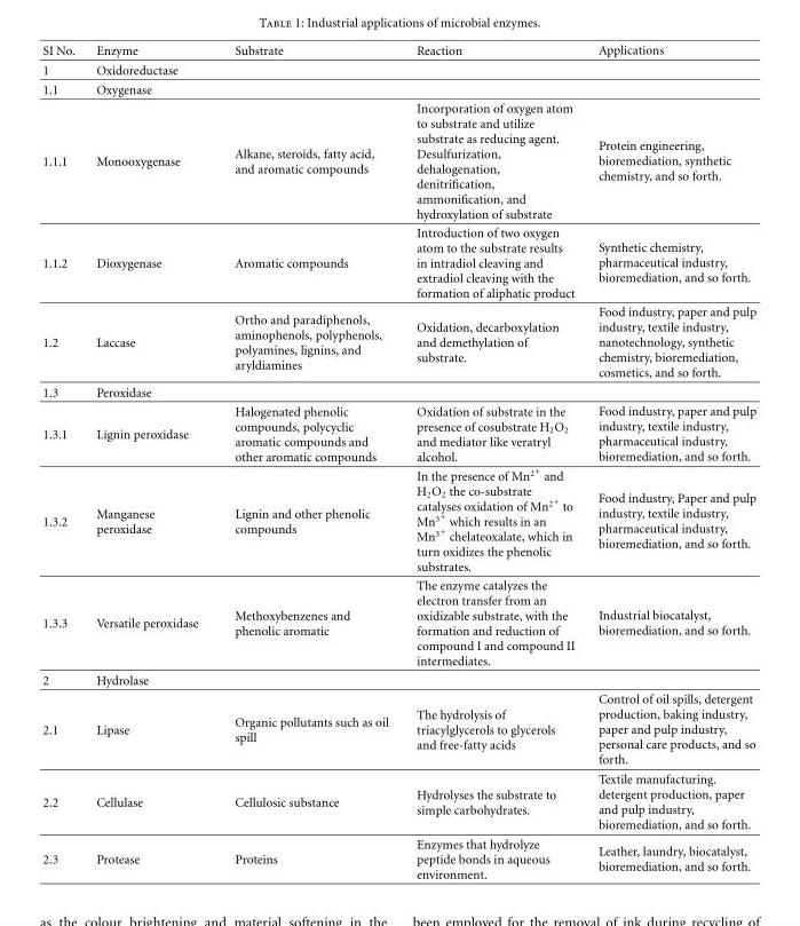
<table><thead><tr><td>SI No.</td><td>Enzyme</td><td>Substrate</td><td>Reaction</td><td>Applications</td></tr></thead><tbody><tr><td>1</td><td>Oxidoreductase</td><td></td><td></td><td></td></tr><tr><td>1.1</td><td>Oxygenase</td><td></td><td></td><td></td></tr><tr><td>1.1.1</td><td>Monooxygenase</td><td>Alkane, steroids, fatty acid, and aromatic compounds</td><td>Incorporation of oxygen atom to substrate and utilize substrate as reducing agent. Desulfurization, dehalogenation, denitrification, ammonification, and hydroxylation of substrate</td><td>Protein engineering, bioremediation, synthetic chemistry, and so forth.</td></tr><tr><td>1.1.2</td><td>Dioxygenase</td><td>Aromatic compounds</td><td>Introduction of two oxygen atom to the substrate results in intradiol cleaving and extradiol cleaving with the formation of aliphatic product</td><td>Synthetic chemistry, pharmaceutical industry, bioremediation, and so forth.</td></tr><tr><td>1.2</td><td>Laccase</td><td>Ortho and paradiphenols, aminophenols, polyphenols, polyamines, lignins, and aryldiamines</td><td>Oxidation, decarboxylation and demethylation of substrate.</td><td>Food industry, paper and pulp industry, textile industry, nanotechnology, synthetic chemistry, bioremediation, cosmetics, and so forth.</td></tr><tr><td>1.3</td><td>Peroxidase</td><td></td><td></td><td></td></tr><tr><td>1.3.1</td><td>Lignin peroxidase</td><td>Halogenated phenolic compounds, polycyclic aromatic compounds and other aromatic compounds</td><td>Oxidation of substrate in the presence of cosubstrate H<sub>2</sub>O<sub>2</sub> and mediator like veratryl alcohol.</td><td>Food industry, paper and pulp industry, textile industry, pharmaceutical industry, bioremediation, and so forth.</td></tr><tr><td>1.3.2</td><td>Manganese peroxidase</td><td>Lignin and other phenolic compounds</td><td>In the presence of Mn<sup>2+</sup> and H<sub>2</sub>O<sub>2</sub> the co-substrate catalyses oxidation of Mn<sup>2+</sup> to Mn<sup>3+</sup> which results in an Mn<sup>3+</sup> chelateoxalate, which in turn oxidizes the phenolic substrates.</td><td>Food industry, Paper and pulp industry, textile industry, pharmaceutical industry, bioremediation, and so forth.</td></tr><tr><td>1.3.3</td><td>Versatile peroxidase</td><td>Methoxybenzenes and phenolic aromatic</td><td>The enzyme catalyzes the electron transfer from an oxidizable substrate, with the formation and reduction of compound I and compound II intermediates.</td><td>Industrial biocatalyst, bioremediation, and so forth.</td></tr><tr><td>2</td><td>Hydrolase</td><td></td><td></td><td></td></tr><tr><td>2.1</td><td>Lipase</td><td>Organic pollutants such as oil spill</td><td>The hydrolysis of triacylglycerols to glycerols and free-fatty acids</td><td>Control of oil spills, detergent production, baking industry, paper and pulp industry, personal care products, and so forth.</td></tr><tr><td>2.2</td><td>Cellulase</td><td>Cellulosic substance</td><td>Hydrolyses the substrate to simple carbohydrates.</td><td>Textile manufacturing. detergent production, paper and pulp industry, bioremediation, and so forth.</td></tr><tr><td>2.3</td><td>Protease</td><td>Proteins</td><td>Enzymes that hydrolyze peptide bonds in aqueous environment.</td><td>Leather, laundry, biocatalyst, bioremediation, and so forth.</td></tr></tbody></table>